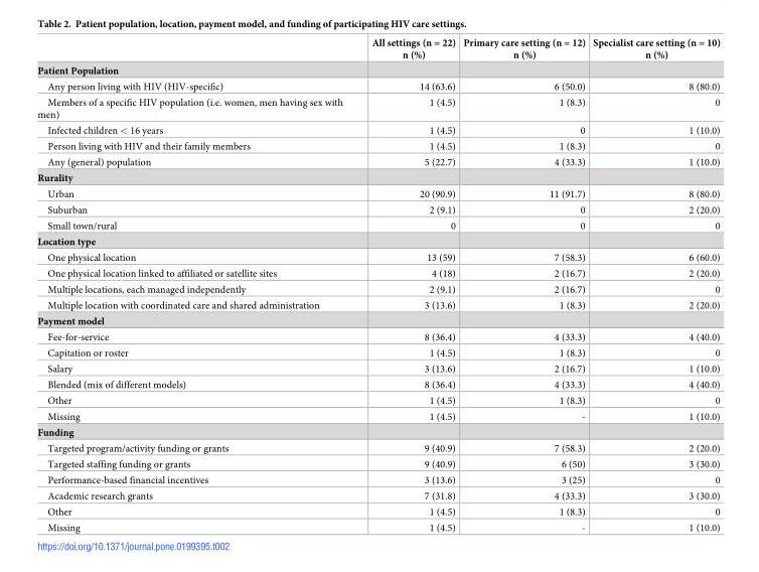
<table><thead><tr><td></td><td>All settings (n = 22) n (%)</td><td>Primary care setting (n = 12) n (%)</td><td>Specialist care setting (n = 10) n (%)</td></tr></thead><tbody><tr><td colspan="4">Patient Population</td></tr><tr><td>Any person living with HIV (HIV-specific)</td><td>14 (63.6)</td><td>6 (50.0)</td><td>8 (80.0)</td></tr><tr><td>Members of a specific HIV population (i.e. women, men having sex with men)</td><td>1 (4.5)</td><td>1 (8.3)</td><td>0</td></tr><tr><td>Infected children &lt; 16 years</td><td>1 (4.5)</td><td>0</td><td>1 (10.0)</td></tr><tr><td>Person living with HIV and their family members</td><td>1 (4.5)</td><td>1 (8.3)</td><td>0</td></tr><tr><td>Any (general) population</td><td>5 (22.7)</td><td>4 (33.3)</td><td>1 (10.0)</td></tr><tr><td colspan="4">Rurality</td></tr><tr><td>Urban</td><td>20 (90.9)</td><td>11 (91.7)</td><td>8 (80.0)</td></tr><tr><td>Suburban</td><td>2 (9.1)</td><td>0</td><td>2 (20.0)</td></tr><tr><td>Small town/rural</td><td>0</td><td>0</td><td>0</td></tr><tr><td colspan="4">Location type</td></tr><tr><td>One physical location</td><td>13 (59)</td><td>7 (58.3)</td><td>6 (60.0)</td></tr><tr><td>One physical location linked to affiliated or satellite sites</td><td>4 (18)</td><td>2 (16.7)</td><td>2 (20.0)</td></tr><tr><td>Multiple locations, each managed independently</td><td>2 (9.1)</td><td>2 (16.7)</td><td>0</td></tr><tr><td>Multiple location with coordinated care and shared administration</td><td>3 (13.6)</td><td>1 (8.3)</td><td>2 (20.0)</td></tr><tr><td colspan="4">Payment model</td></tr><tr><td>Fee-for-service</td><td>8 (36.4)</td><td>4 (33.3)</td><td>4 (40.0)</td></tr><tr><td>Capitation or roster</td><td>1 (4.5)</td><td>1 (8.3)</td><td>0</td></tr><tr><td>Salary</td><td>3 (13.6)</td><td>2 (16.7)</td><td>1 (10.0)</td></tr><tr><td>Blended (mix of different models)</td><td>8 (36.4)</td><td>4 (33.3)</td><td>4 (40.0)</td></tr><tr><td>Other</td><td>1 (4.5)</td><td>1 (8.3)</td><td>0</td></tr><tr><td>Missing</td><td>1 (4.5)</td><td>-</td><td>1 (10.0)</td></tr><tr><td colspan="4">Funding</td></tr><tr><td>Targeted program/activity funding or grants</td><td>9 (40.9)</td><td>7 (58.3)</td><td>2 (20.0)</td></tr><tr><td>Targeted staffing funding or grants</td><td>9 (40.9)</td><td>6 (50)</td><td>3 (30.0)</td></tr><tr><td>Performance-based financial incentives</td><td>3 (13.6)</td><td>3 (25)</td><td>0</td></tr><tr><td>Academic research grants</td><td>7 (31.8)</td><td>4 (33.3)</td><td>3 (30.0)</td></tr><tr><td>Other</td><td>1 (4.5)</td><td>1 (8.3)</td><td>0</td></tr><tr><td>Missing</td><td>1 (4.5)</td><td>-</td><td>1 (10.0)</td></tr></tbody></table>